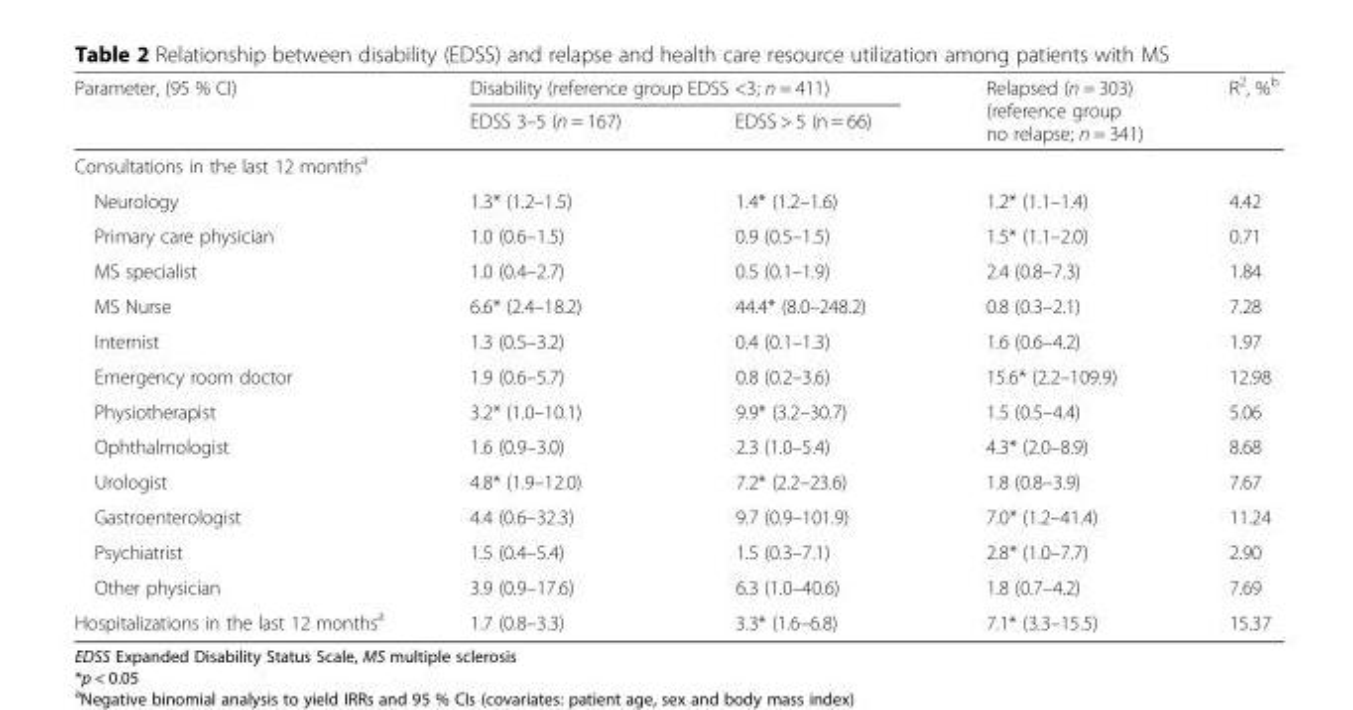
<table><thead><tr><td rowspan="2">Parameter, (95 % CI)</td><td colspan="2">Disability (reference group EDSS &lt;3; n = 411)</td><td rowspan="2">Relapsed (n = 303) (reference group no relapse; n = 341)</td><td rowspan="2">R<sup>2</sup>, %<sup>b</sup></td></tr><tr><td>EDSS 3–5 (n = 167)</td><td>EDSS &gt; 5 (n = 66)</td></tr></thead><tbody><tr><td colspan="5">Consultations in the last 12 months<sup>a</sup></td></tr><tr><td>Neurology</td><td>1.3* (1.2–1.5)</td><td>1.4* (1.2–1.6)</td><td>1.2* (1.1–1.4)</td><td>4.42</td></tr><tr><td>Primary care physician</td><td>1.0 (0.6–1.5)</td><td>0.9 (0.5–1.5)</td><td>1.5* (1.1–2.0)</td><td>0.71</td></tr><tr><td>MS specialist</td><td>1.0 (0.4–2.7)</td><td>0.5 (0.1–1.9)</td><td>2.4 (0.8–7.3)</td><td>1.84</td></tr><tr><td>MS Nurse</td><td>6.6* (2.4–18.2)</td><td>44.4* (8.0–248.2)</td><td>0.8 (0.3–2.1)</td><td>7.28</td></tr><tr><td>Internist</td><td>1.3 (0.5–3.2)</td><td>0.4 (0.1–1.3)</td><td>1.6 (0.6–4.2)</td><td>1.97</td></tr><tr><td>Emergency room doctor</td><td>1.9 (0.6–5.7)</td><td>0.8 (0.2–3.6)</td><td>15.6* (2.2–109.9)</td><td>12.98</td></tr><tr><td>Physiotherapist</td><td>3.2* (1.0–10.1)</td><td>9.9* (3.2–30.7)</td><td>1.5 (0.5–4.4)</td><td>5.06</td></tr><tr><td>Ophthalmologist</td><td>1.6 (0.9–3.0)</td><td>2.3 (1.0–5.4)</td><td>4.3* (2.0–8.9)</td><td>8.68</td></tr><tr><td>Urologist</td><td>4.8* (1.9–12.0)</td><td>7.2* (2.2–23.6)</td><td>1.8 (0.8–3.9)</td><td>7.67</td></tr><tr><td>Gastroenterologist</td><td>4.4 (0.6–32.3)</td><td>9.7 (0.9–101.9)</td><td>7.0* (1.2–41.4)</td><td>11.24</td></tr><tr><td>Psychiatrist</td><td>1.5 (0.4–5.4)</td><td>1.5 (0.3–7.1)</td><td>2.8* (1.0–7.7)</td><td>2.90</td></tr><tr><td>Other physician</td><td>3.9 (0.9–17.6)</td><td>6.3 (1.0–40.6)</td><td>1.8 (0.7–4.2)</td><td>7.69</td></tr><tr><td>Hospitalizations in the last 12 months<sup>a</sup></td><td>1.7 (0.8–3.3)</td><td>3.3* (1.6–6.8)</td><td>7.1* (3.3–15.5)</td><td>15.37</td></tr></tbody></table>